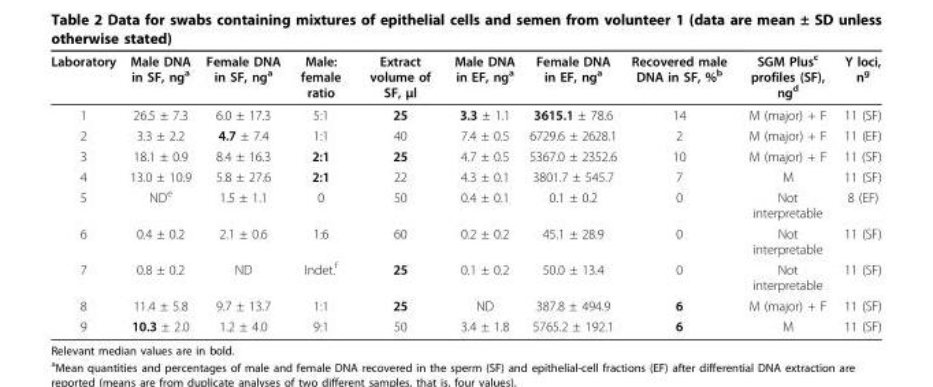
<table><thead><tr><td>Laboratory</td><td>Male DNA in SF, ng<sup>a</sup></td><td>Female DNA in SF, ng<sup>a</sup></td><td>Male: female ratio</td><td>Extract volume of SF, μl</td><td>Male DNA in EF, ng<sup>a</sup></td><td>Female DNA in EF, ng<sup>a</sup></td><td>Recovered male DNA in SF, %<sup>b</sup></td><td>SGM Plus<sup>c</sup> profiles (SF), ng<sup>d</sup></td><td>Y loci, n<sup>g</sup></td></tr></thead><tbody><tr><td>1</td><td>26.5 ± 7.3</td><td>6.0 ± 17.3</td><td>5:1</td><td>25</td><td>3.3 ± 1.1</td><td>3615.1 ± 78.6</td><td>14</td><td>M (major) + F</td><td>11 (SF)</td></tr><tr><td>2</td><td>3.3 ± 2.2</td><td>4.7 ± 7.4</td><td>1:1</td><td>40</td><td>7.4 ± 0.5</td><td>6729.6 ± 2628.1</td><td>2</td><td>M (major) + F</td><td>11 (EF)</td></tr><tr><td>3</td><td>18.1 ± 0.9</td><td>8.4 ± 16.3</td><td>2:1</td><td>25</td><td>4.7 ± 0.5</td><td>5367.0 ± 2352.6</td><td>10</td><td>M (major) + F</td><td>11 (SF)</td></tr><tr><td>4</td><td>13.0 ± 10.9</td><td>5.8 ± 27.6</td><td>2:1</td><td>22</td><td>4.3 ± 0.1</td><td>3801.7 ± 545.7</td><td>7</td><td>M</td><td>11 (SF)</td></tr><tr><td>5</td><td>ND<sup>e</sup></td><td>1.5 ± 1.1</td><td>0</td><td>50</td><td>0.4 ± 0.1</td><td>0.1 ± 0.2</td><td>0</td><td>Not interpretable</td><td>8 (EF)</td></tr><tr><td>6</td><td>0.4 ± 0.2</td><td>2.1 ± 0.6</td><td>1:6</td><td>60</td><td>0.2 ± 0.2</td><td>45.1 ± 28.9</td><td>0</td><td>Not interpretable</td><td>11 (SF)</td></tr><tr><td>7</td><td>0.8 ± 0.2</td><td>ND</td><td>Indet.<sup>f</sup></td><td>25</td><td>0.1 ± 0.2</td><td>50.0 ± 13.4</td><td>0</td><td>Not interpretable</td><td>11 (SF)</td></tr><tr><td>8</td><td>11.4 ± 5.8</td><td>9.7 ± 13.7</td><td>1:1</td><td>25</td><td>ND</td><td>387.8 ± 494.9</td><td>6</td><td>M (major) + F</td><td>11 (SF)</td></tr><tr><td>9</td><td>10.3 ± 2.0</td><td>1.2 ± 4.0</td><td>9:1</td><td>50</td><td>3.4 ± 1.8</td><td>5765.2 ± 192.1</td><td>6</td><td>M</td><td>11 (SF)</td></tr></tbody></table>